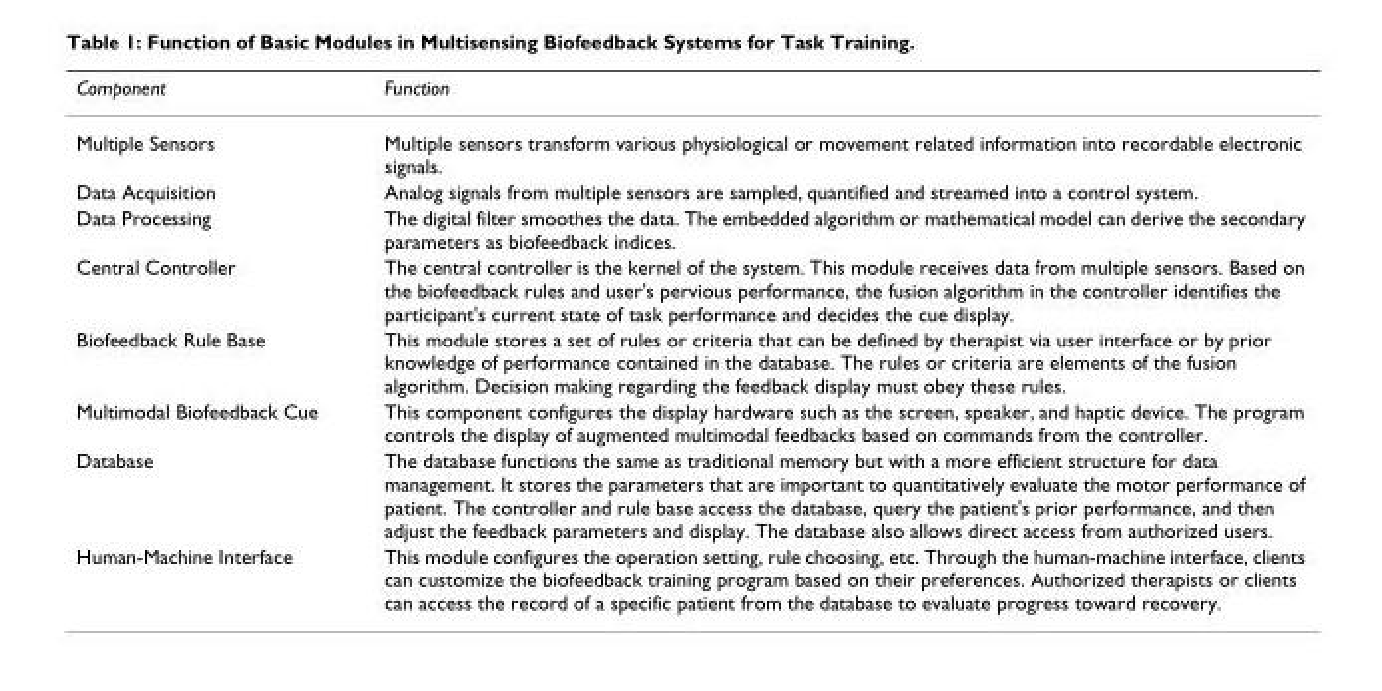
<table><thead><tr><td>Component</td><td>Function</td></tr></thead><tbody><tr><td>Multiple Sensors</td><td>Multiple sensors transform various physiological or movement related information into recordable electronic signals.</td></tr><tr><td>Data Acquisition</td><td>Analog signals from multiple sensors are sampled, quantified and streamed into a control system.</td></tr><tr><td>Data Processing</td><td>The digital filter smoothes the data. The embedded algorithm or mathematical model can derive the secondary parameters as biofeedback indices.</td></tr><tr><td>Central Controller</td><td>The central controller is the kernel of the system. This module receives data from multiple sensors. Based on the biofeedback rules and user&#x27;s pervious performance, the fusion algorithm in the controller identifies the participant&#x27;s current state of task performance and decides the cue display.</td></tr><tr><td>Biofeedback Rule Base</td><td>This module stores a set of rules or criteria that can be defined by therapist via user interface or by prior knowledge of performance contained in the database. The rules or criteria are elements of the fusion algorithm. Decision making regarding the feedback display must obey these rules.</td></tr><tr><td>Multimodal Biofeedback Cue</td><td>This component configures the display hardware such as the screen, speaker, and haptic device. The program controls the display of augmented multimodal feedbacks based on commands from the controller.</td></tr><tr><td>Database</td><td>The database functions the same as traditional memory but with a more efficient structure for data management. It stores the parameters that are important to quantitatively evaluate the motor performance of patient. The controller and rule base access the database, query the patient&#x27;s prior performance, and then adjust the feedback parameters and display. The database also allows direct access from authorized users.</td></tr><tr><td>Human-Machine Interface</td><td>This module configures the operation setting, rule choosing, etc. Through the human-machine interface, clients can customize the biofeedback training program based on their preferences. Authorized therapists or clients can access the record of a specific patient from the database to evaluate progress toward recovery.</td></tr></tbody></table>